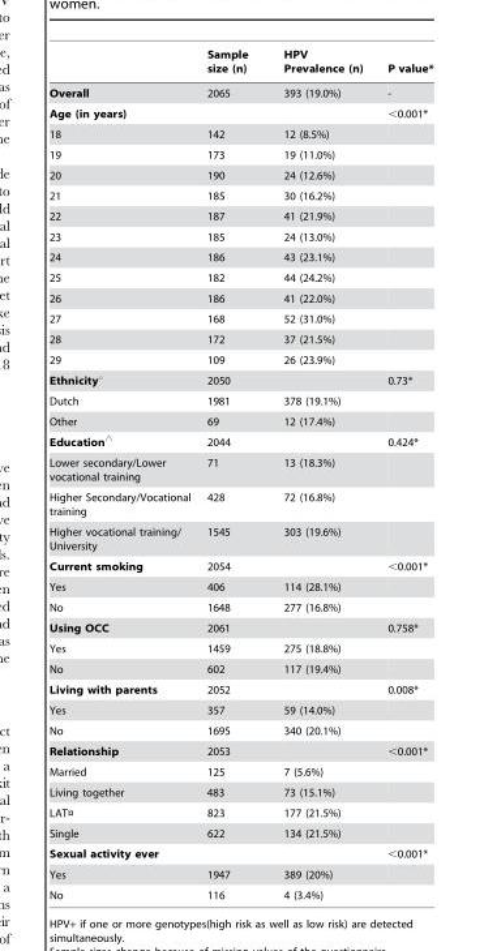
<table><thead><tr><td></td><td>Sample size (n)</td><td>HPV Prevalence (n)</td><td>P value*</td></tr></thead><tbody><tr><td>Overall</td><td>2065</td><td>393 (19.0%)</td><td>-</td></tr><tr><td>Age (in years)</td><td></td><td></td><td>&lt;0.001*</td></tr><tr><td>18</td><td>142</td><td>12 (8.5%)</td><td></td></tr><tr><td>19</td><td>173</td><td>19 (11.0%)</td><td></td></tr><tr><td>20</td><td>190</td><td>24 (12.6%)</td><td></td></tr><tr><td>21</td><td>185</td><td>30 (16.2%)</td><td></td></tr><tr><td>22</td><td>187</td><td>41 (21.9%)</td><td></td></tr><tr><td>23</td><td>185</td><td>24 (13.0%)</td><td></td></tr><tr><td>24</td><td>186</td><td>43 (23.1%)</td><td></td></tr><tr><td>25</td><td>182</td><td>44 (24.2%)</td><td></td></tr><tr><td>26</td><td>186</td><td>41 (22.0%)</td><td></td></tr><tr><td>27</td><td>168</td><td>52 (31.0%)</td><td></td></tr><tr><td>28</td><td>172</td><td>37 (21.5%)</td><td></td></tr><tr><td>29</td><td>109</td><td>26 (23.9%)</td><td></td></tr><tr><td>Ethnicity°</td><td>2050</td><td></td><td>0.73*</td></tr><tr><td>Dutch</td><td>1981</td><td>378 (19.1%)</td><td></td></tr><tr><td>Other</td><td>69</td><td>12 (17.4%)</td><td></td></tr><tr><td>Education‘</td><td>2044</td><td></td><td>0.424*</td></tr><tr><td>Lower secondary/Lower vocational training</td><td>71</td><td>13 (18.3%)</td><td></td></tr><tr><td>Higher Secondary/Vocational training</td><td>428</td><td>72 (16.8%)</td><td></td></tr><tr><td>Higher vocational training/ University</td><td>1545</td><td>303 (19.6%)</td><td></td></tr><tr><td>Current smoking</td><td>2054</td><td></td><td>&lt;0.001*</td></tr><tr><td>Yes</td><td>406</td><td>114 (28.1%)</td><td></td></tr><tr><td>No</td><td>1648</td><td>277 (16.8%)</td><td></td></tr><tr><td>Using OCC</td><td>2061</td><td></td><td>0.758*</td></tr><tr><td>Yes</td><td>1459</td><td>275 (18.8%)</td><td></td></tr><tr><td>No</td><td>602</td><td>117 (19.4%)</td><td></td></tr><tr><td>Living with parents</td><td>2052</td><td></td><td>0.008*</td></tr><tr><td>Yes</td><td>357</td><td>59 (14.0%)</td><td></td></tr><tr><td>No</td><td>1695</td><td>340 (20.1%)</td><td></td></tr><tr><td>Relationship</td><td>2053</td><td></td><td>&lt;0.001*</td></tr><tr><td>Married</td><td>125</td><td>7 (5.6%)</td><td></td></tr><tr><td>Living together</td><td>483</td><td>73 (15.1%)</td><td></td></tr><tr><td>LAT¤</td><td>823</td><td>177 (21.5%)</td><td></td></tr><tr><td>Single</td><td>622</td><td>134 (21.5%)</td><td></td></tr><tr><td>Sexual activity ever</td><td></td><td></td><td>&lt;0.001*</td></tr><tr><td>Yes</td><td>1947</td><td>389 (20%)</td><td></td></tr><tr><td>No</td><td>116</td><td>4 (3.4%)</td><td></td></tr></tbody></table>